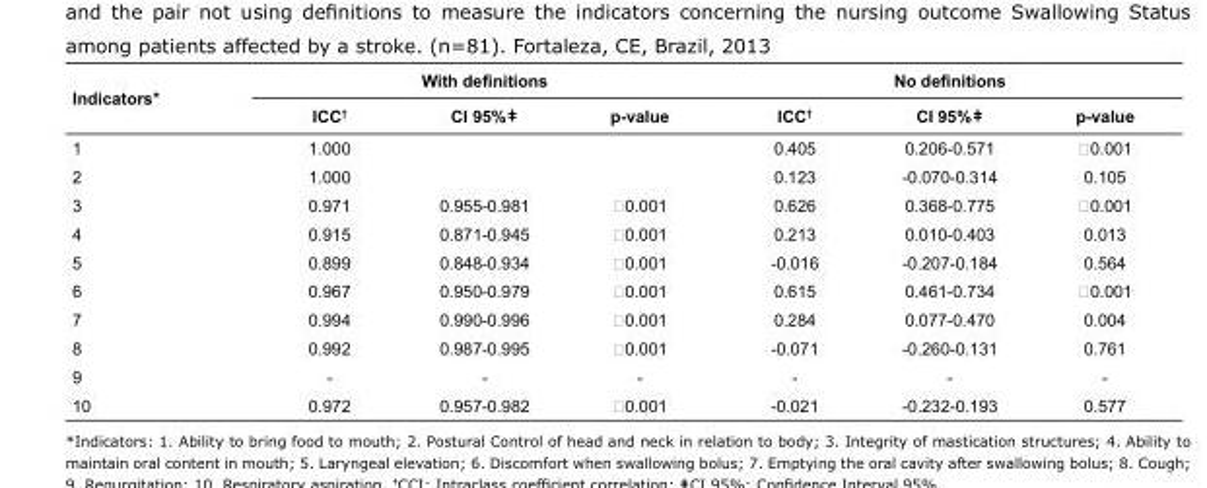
<table><thead><tr><td rowspan="2">Indicators*</td><td colspan="3">With definitions</td><td colspan="3">No definitions</td></tr><tr><td>ICC<sup>†</sup></td><td>CI 95%‡</td><td>p-value</td><td>ICC<sup>†</sup></td><td>CI 95%‡</td><td>p-value</td></tr></thead><tbody><tr><td>1</td><td>1.000</td><td></td><td></td><td>0.405</td><td>0.206-0.571</td><td>˂0.001</td></tr><tr><td>2</td><td>1.000</td><td></td><td></td><td>0.123</td><td>-0.070-0.314</td><td>0.105</td></tr><tr><td>3</td><td>0.971</td><td>0.955-0.981</td><td>˂0.001</td><td>0.626</td><td>0.368-0.775</td><td>˂0.001</td></tr><tr><td>4</td><td>0.915</td><td>0.871-0.945</td><td>˂0.001</td><td>0.213</td><td>0.010-0.403</td><td>0.013</td></tr><tr><td>5</td><td>0.899</td><td>0.848-0.934</td><td>˂0.001</td><td>-0.016</td><td>-0.207-0.184</td><td>0.564</td></tr><tr><td>6</td><td>0.967</td><td>0.950-0.979</td><td>˂0.001</td><td>0.615</td><td>0.461-0.734</td><td>˂0.001</td></tr><tr><td>7</td><td>0.994</td><td>0.990-0.996</td><td>˂0.001</td><td>0.284</td><td>0.077-0.470</td><td>0.004</td></tr><tr><td>8</td><td>0.992</td><td>0.987-0.995</td><td>˂0.001</td><td>-0.071</td><td>-0.260-0.131</td><td>0.761</td></tr><tr><td>9</td><td>-</td><td>-</td><td>-</td><td>-</td><td>-</td><td>-</td></tr><tr><td>10</td><td>0.972</td><td>0.957-0.982</td><td>˂0.001</td><td>-0.021</td><td>-0.232-0.193</td><td>0.577</td></tr></tbody></table>